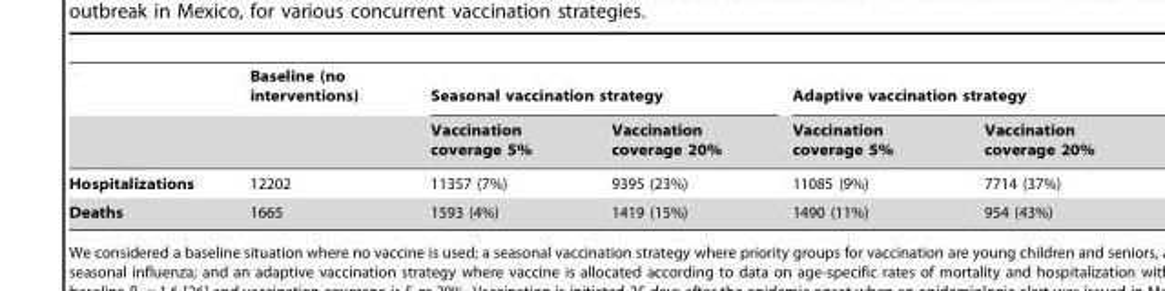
<table><thead><tr><td rowspan="2"></td><td rowspan="2">Baseline (no interventions)</td><td colspan="2">Seasonal vaccination strategy</td><td colspan="2">Adaptive vaccination strategy</td></tr><tr><td>Vaccination coverage 5%</td><td>Vaccination coverage 20%</td><td>Vaccination coverage 5%</td><td>Vaccination coverage 20%</td></tr></thead><tbody><tr><td>Hospitalizations</td><td>12202</td><td>11357 (7%)</td><td>9395 (23%)</td><td>11085 (9%)</td><td>7714 (37%)</td></tr><tr><td>Deaths</td><td>1665</td><td>1593 (4%)</td><td>1419 (15%)</td><td>1490 (11%)</td><td>954 (43%)</td></tr></tbody></table>